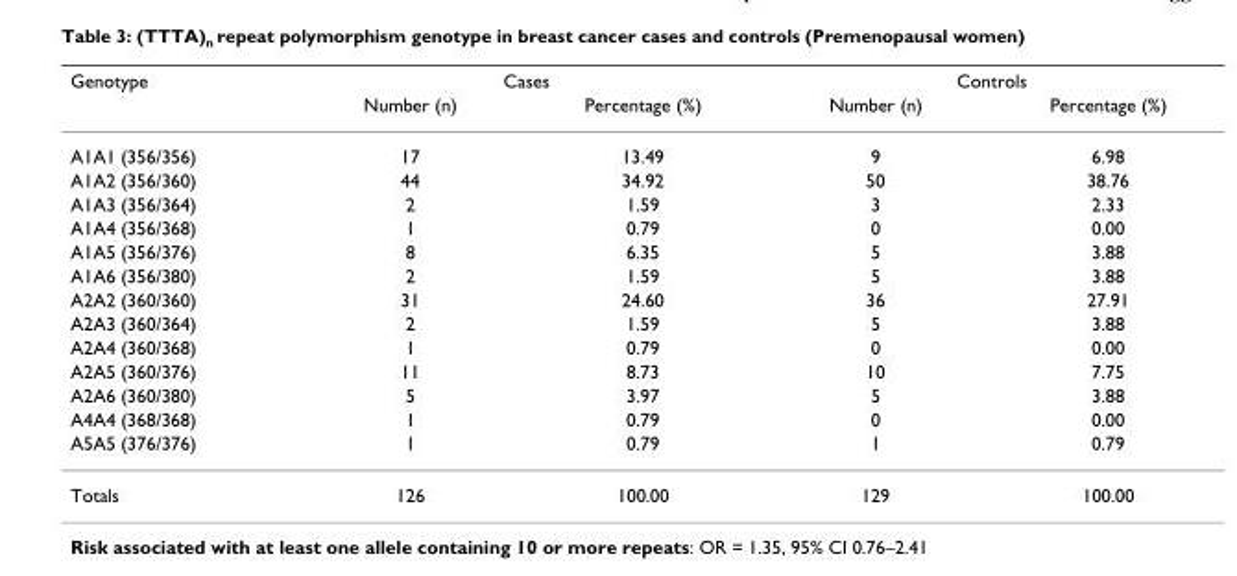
<table><thead><tr><td rowspan="2">Genotype</td><td colspan="2">Cases</td><td colspan="2">Controls</td></tr><tr><td>Number (n)</td><td>Percentage (%)</td><td>Number (n)</td><td>Percentage (%)</td></tr></thead><tbody><tr><td>A1A1 (356/356)</td><td>17</td><td>13.49</td><td>9</td><td>6.98</td></tr><tr><td>A1A2 (356/360)</td><td>44</td><td>34.92</td><td>50</td><td>38.76</td></tr><tr><td>A1A3 (356/364)</td><td>2</td><td>1.59</td><td>3</td><td>2.33</td></tr><tr><td>A1A4 (356/368)</td><td>1</td><td>0.79</td><td>0</td><td>0.00</td></tr><tr><td>A1A5 (356/376)</td><td>8</td><td>6.35</td><td>5</td><td>3.88</td></tr><tr><td>A1A6 (356/380)</td><td>2</td><td>1.59</td><td>5</td><td>3.88</td></tr><tr><td>A2A2 (360/360)</td><td>31</td><td>24.60</td><td>36</td><td>27.91</td></tr><tr><td>A2A3 (360/364)</td><td>2</td><td>1.59</td><td>5</td><td>3.88</td></tr><tr><td>A2A4 (360/368)</td><td>1</td><td>0.79</td><td>0</td><td>0.00</td></tr><tr><td>A2A5 (360/376)</td><td>11</td><td>8.73</td><td>10</td><td>7.75</td></tr><tr><td>A2A6 (360/380)</td><td>5</td><td>3.97</td><td>5</td><td>3.88</td></tr><tr><td>A4A4 (368/368)</td><td>1</td><td>0.79</td><td>0</td><td>0.00</td></tr><tr><td>A5A5 (376/376)</td><td>1</td><td>0.79</td><td>1</td><td>0.79</td></tr><tr><td>Totals</td><td>126</td><td>100.00</td><td>129</td><td>100.00</td></tr></tbody></table>